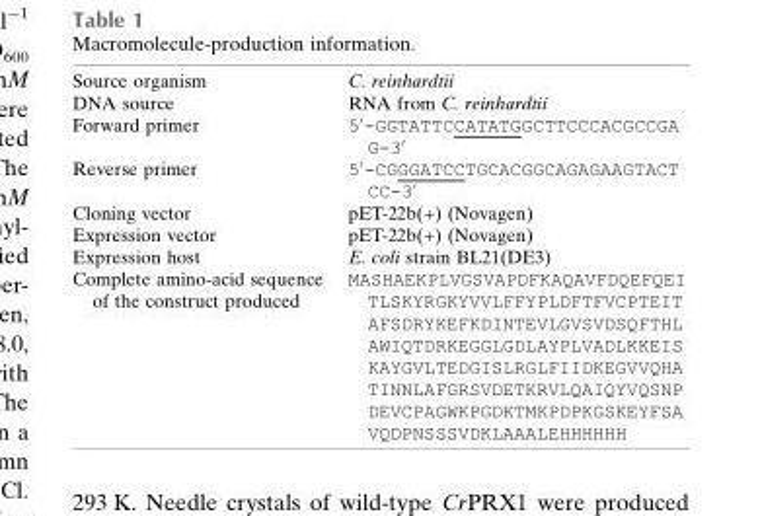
<table><tbody><tr><td>Source organism</td><td>C. reinhardtii</td></tr><tr><td>DNA source</td><td>RNA from C. reinhardtii</td></tr><tr><td>Forward primer</td><td>5′-GGTATTCCATATGGCTTCCCACGCCGA G-3′</td></tr><tr><td>Reverse primer</td><td>5′-CGGGATCCTGCACGGCAGAGAAGTACT CC-3′</td></tr><tr><td>Cloning vector</td><td>pET-22b(+) (Novagen)</td></tr><tr><td>Expression vector</td><td>pET-22b(+) (Novagen)</td></tr><tr><td>Expression host</td><td>E. coli strain BL21(DE3)</td></tr><tr><td>Complete amino-acid sequence of the construct produced</td><td>MASHAEKPLVGSVAPDFKAQAVFDQEFQEI TLSKYRGKYVVLFFYPLDFTFVCPTEIT AFSDRYKEFKDINTEVLGVSVDSQFTHL AWIQTDRKEGGLGDLAYPLVADLKKEIS KAYGVLTEDGISLRGLFIIDKEGVVQHA TINNLAFGRSVDETKRVLQAIQYVQSNP DEVCPAGWKPGDKTMKPDPKGSKEYFSA VQDPNSSSVDKLAAALEHHHHHH</td></tr></tbody></table>